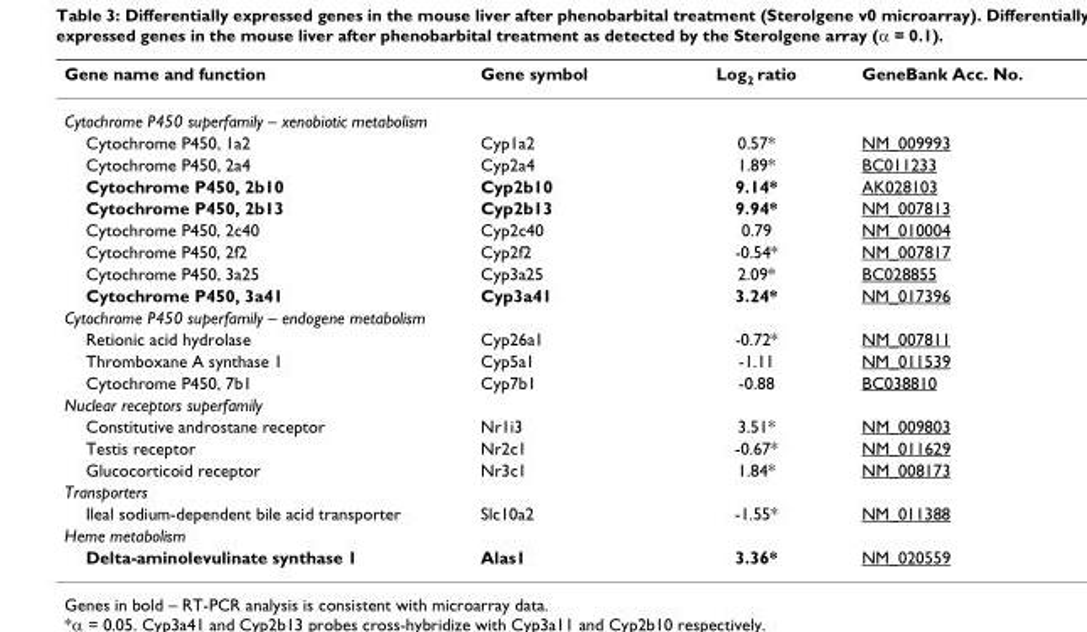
<table><thead><tr><td>Gene name and function</td><td>Gene symbol</td><td>Log<sub>2</sub> ratio</td><td>GeneBank Acc. No.</td></tr></thead><tbody><tr><td colspan="4">Cytochrome P450 superfamily – xenobiotic metabolism</td></tr><tr><td>Cytochrome P450, 1a2</td><td>Cyp1a2</td><td>0.57*</td><td>NM_009993</td></tr><tr><td>Cytochrome P450, 2a4</td><td>Cyp2a4</td><td>1.89*</td><td>BC011233</td></tr><tr><td>Cytochrome P450, 2b10</td><td>Cyp2b10</td><td>9.14*</td><td>AK028103</td></tr><tr><td>Cytochrome P450, 2b13</td><td>Cyp2b13</td><td>9.94*</td><td>NM_007813</td></tr><tr><td>Cytochrome P450, 2c40</td><td>Cyp2c40</td><td>0.79</td><td>NM_010004</td></tr><tr><td>Cytochrome P450, 2f2</td><td>Cyp2f2</td><td>-0.54*</td><td>NM_007817</td></tr><tr><td>Cytochrome P450, 3a25</td><td>Cyp3a25</td><td>2.09*</td><td>BC028855</td></tr><tr><td>Cytochrome P450, 3a41</td><td>Cyp3a41</td><td>3.24*</td><td>NM_017396</td></tr><tr><td colspan="4">Cytochrome P450 superfamily – endogene metabolism</td></tr><tr><td>Retionic acid hydrolase</td><td>Cyp26a1</td><td>-0.72*</td><td>NM_007811</td></tr><tr><td>Thromboxane A synthase 1</td><td>Cyp5a1</td><td>-1.11</td><td>NM_011539</td></tr><tr><td>Cytochrome P450, 7b1</td><td>Cyp7b1</td><td>-0.88</td><td>BC038810</td></tr><tr><td colspan="4">Nuclear receptors superfamily</td></tr><tr><td>Constitutive androstane receptor</td><td>Nr1i3</td><td>3.51*</td><td>NM_009803</td></tr><tr><td>Testis receptor</td><td>Nr2c1</td><td>-0.67*</td><td>NM_011629</td></tr><tr><td>Glucocorticoid receptor</td><td>Nr3c1</td><td>1.84*</td><td>NM_008173</td></tr><tr><td colspan="4">Transporters</td></tr><tr><td>Ileal sodium-dependent bile acid transporter</td><td>Slc10a2</td><td>-1.55*</td><td>NM_011388</td></tr><tr><td colspan="4">Heme metabolism</td></tr><tr><td>Delta-aminolevulinate synthase 1</td><td>Alas1</td><td>3.36*</td><td>NM_020559</td></tr></tbody></table>